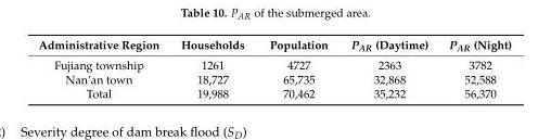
<table><thead><tr><td>Administrative Region</td><td>Households</td><td>Population</td><td>P<sub>AR</sub> (Daytime)</td><td>P<sub>AR</sub> (Night)</td></tr></thead><tbody><tr><td>Fujiang township</td><td>1261</td><td>4727</td><td>2363</td><td>3782</td></tr><tr><td>Nan’an town</td><td>18,727</td><td>65,735</td><td>32,868</td><td>52,588</td></tr><tr><td>Total</td><td>19,988</td><td>70,462</td><td>35,232</td><td>56,370</td></tr></tbody></table>